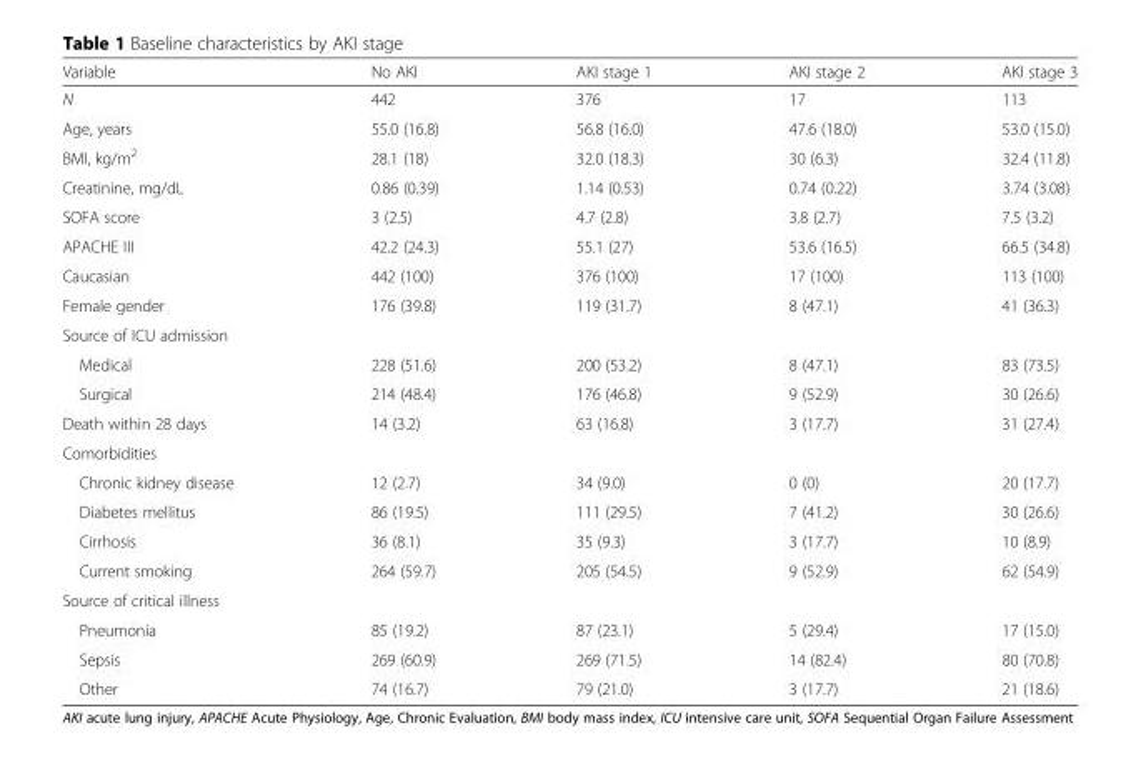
<table><thead><tr><td>Variable</td><td>No AKI</td><td>AKI stage 1</td><td>AKI stage 2</td><td>AKI stage 3</td></tr></thead><tbody><tr><td>N</td><td>442</td><td>376</td><td>17</td><td>113</td></tr><tr><td>Age, years</td><td>55.0 (16.8)</td><td>56.8 (16.0)</td><td>47.6 (18.0)</td><td>53.0 (15.0)</td></tr><tr><td>BMI, kg/m<sup>2</sup></td><td>28.1 (18)</td><td>32.0 (18.3)</td><td>30 (6.3)</td><td>32.4 (11.8)</td></tr><tr><td>Creatinine, mg/dL</td><td>0.86 (0.39)</td><td>1.14 (0.53)</td><td>0.74 (0.22)</td><td>3.74 (3.08)</td></tr><tr><td>SOFA score</td><td>3 (2.5)</td><td>4.7 (2.8)</td><td>3.8 (2.7)</td><td>7.5 (3.2)</td></tr><tr><td>APACHE III</td><td>42.2 (24.3)</td><td>55.1 (27)</td><td>53.6 (16.5)</td><td>66.5 (34.8)</td></tr><tr><td>Caucasian</td><td>442 (100)</td><td>376 (100)</td><td>17 (100)</td><td>113 (100)</td></tr><tr><td>Female gender</td><td>176 (39.8)</td><td>119 (31.7)</td><td>8 (47.1)</td><td>41 (36.3)</td></tr><tr><td colspan="5">Source of ICU admission</td></tr><tr><td>Medical</td><td>228 (51.6)</td><td>200 (53.2)</td><td>8 (47.1)</td><td>83 (73.5)</td></tr><tr><td>Surgical</td><td>214 (48.4)</td><td>176 (46.8)</td><td>9 (52.9)</td><td>30 (26.6)</td></tr><tr><td>Death within 28 days</td><td>14 (3.2)</td><td>63 (16.8)</td><td>3 (17.7)</td><td>31 (27.4)</td></tr><tr><td colspan="5">Comorbidities</td></tr><tr><td>Chronic kidney disease</td><td>12 (2.7)</td><td>34 (9.0)</td><td>0 (0)</td><td>20 (17.7)</td></tr><tr><td>Diabetes mellitus</td><td>86 (19.5)</td><td>111 (29.5)</td><td>7 (41.2)</td><td>30 (26.6)</td></tr><tr><td>Cirrhosis</td><td>36 (8.1)</td><td>35 (9.3)</td><td>3 (17.7)</td><td>10 (8.9)</td></tr><tr><td>Current smoking</td><td>264 (59.7)</td><td>205 (54.5)</td><td>9 (52.9)</td><td>62 (54.9)</td></tr><tr><td colspan="5">Source of critical illness</td></tr><tr><td>Pneumonia</td><td>85 (19.2)</td><td>87 (23.1)</td><td>5 (29.4)</td><td>17 (15.0)</td></tr><tr><td>Sepsis</td><td>269 (60.9)</td><td>269 (71.5)</td><td>14 (82.4)</td><td>80 (70.8)</td></tr><tr><td>Other</td><td>74 (16.7)</td><td>79 (21.0)</td><td>3 (17.7)</td><td>21 (18.6)</td></tr></tbody></table>